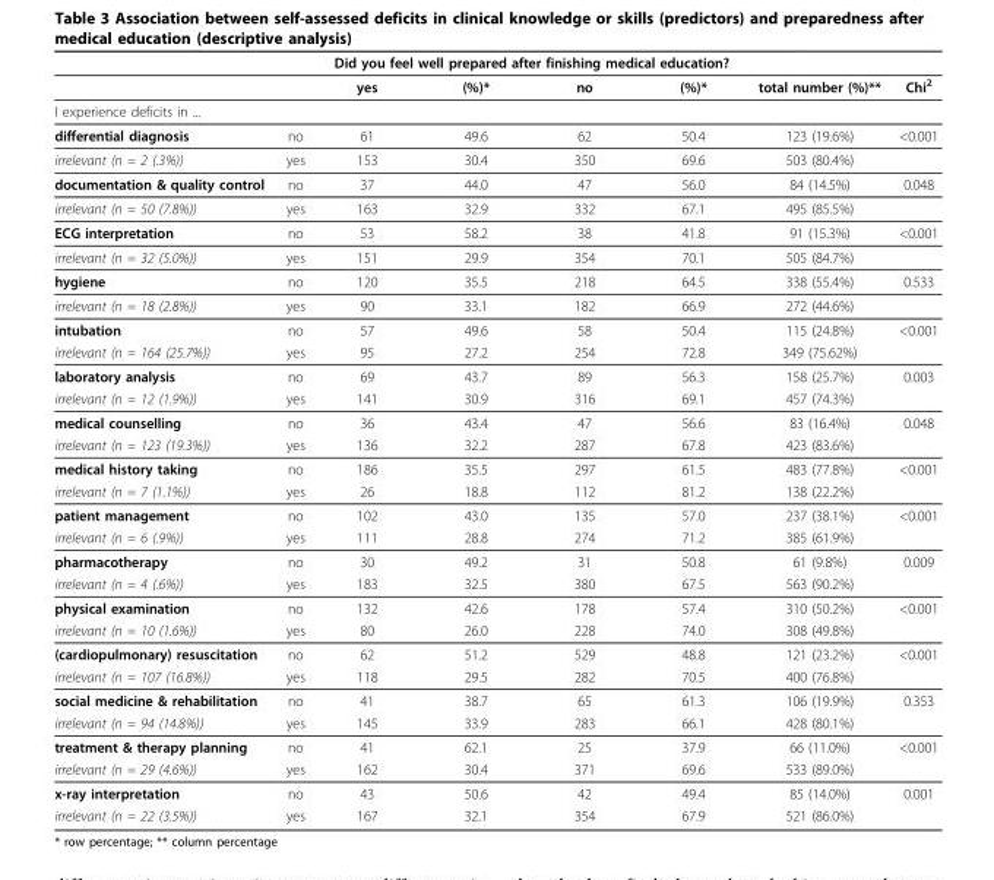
<table><thead><tr><td rowspan="2"></td><td rowspan="2"></td><td colspan="4">Did you feel well prepared after finishing medical education?</td><td rowspan="2">total number (%)**</td><td rowspan="2">Chi<sup>2</sup></td></tr><tr><td>yes</td><td>(%)*</td><td>no</td><td>(%)*</td></tr></thead><tbody><tr><td colspan="8">I experience deficits in ...</td></tr><tr><td>differential diagnosis</td><td>no</td><td>61</td><td>49.6</td><td>62</td><td>50.4</td><td>123 (19.6%)</td><td>&lt;0.001</td></tr><tr><td>irrelevant (n = 2 (.3%))</td><td>yes</td><td>153</td><td>30.4</td><td>350</td><td>69.6</td><td>503 (80.4%)</td><td></td></tr><tr><td>documentation &amp; quality control</td><td>no</td><td>37</td><td>44.0</td><td>47</td><td>56.0</td><td>84 (14.5%)</td><td>0.048</td></tr><tr><td>irrelevant (n = 50 (7.8%))</td><td>yes</td><td>163</td><td>32.9</td><td>332</td><td>67.1</td><td>495 (85.5%)</td><td></td></tr><tr><td>ECG interpretation</td><td>no</td><td>53</td><td>58.2</td><td>38</td><td>41.8</td><td>91 (15.3%)</td><td>&lt;0.001</td></tr><tr><td>irrelevant (n = 32 (5.0%))</td><td>yes</td><td>151</td><td>29.9</td><td>354</td><td>70.1</td><td>505 (84.7%)</td><td></td></tr><tr><td>hygiene</td><td>no</td><td>120</td><td>35.5</td><td>218</td><td>64.5</td><td>338 (55.4%)</td><td>0.533</td></tr><tr><td>irrelevant (n = 18 (2.8%))</td><td>yes</td><td>90</td><td>33.1</td><td>182</td><td>66.9</td><td>272 (44.6%)</td><td></td></tr><tr><td>intubation</td><td>no</td><td>57</td><td>49.6</td><td>58</td><td>50.4</td><td>115 (24.8%)</td><td>&lt;0.001</td></tr><tr><td>irrelevant (n = 164 (25.7%))</td><td>yes</td><td>95</td><td>27.2</td><td>254</td><td>72.8</td><td>349 (75.62%)</td><td></td></tr><tr><td>laboratory analysis</td><td>no</td><td>69</td><td>43.7</td><td>89</td><td>56.3</td><td>158 (25.7%)</td><td>0.003</td></tr><tr><td>irrelevant (n = 12 (1.9%))</td><td>yes</td><td>141</td><td>30.9</td><td>316</td><td>69.1</td><td>457 (74.3%)</td><td></td></tr><tr><td>medical counselling</td><td>no</td><td>36</td><td>43.4</td><td>47</td><td>56.6</td><td>83 (16.4%)</td><td>0.048</td></tr><tr><td>irrelevant (n = 123 (19.3%))</td><td>yes</td><td>136</td><td>32.2</td><td>287</td><td>67.8</td><td>423 (83.6%)</td><td></td></tr><tr><td>medical history taking</td><td>no</td><td>186</td><td>35.5</td><td>297</td><td>61.5</td><td>483 (77.8%)</td><td>&lt;0.001</td></tr><tr><td>irrelevant (n = 7 (1.1%))</td><td>yes</td><td>26</td><td>18.8</td><td>112</td><td>81.2</td><td>138 (22.2%)</td><td></td></tr><tr><td>patient management</td><td>no</td><td>102</td><td>43.0</td><td>135</td><td>57.0</td><td>237 (38.1%)</td><td>&lt;0.001</td></tr><tr><td>irrelevant (n = 6 (.9%))</td><td>yes</td><td>111</td><td>28.8</td><td>274</td><td>71.2</td><td>385 (61.9%)</td><td></td></tr><tr><td>pharmacotherapy</td><td>no</td><td>30</td><td>49.2</td><td>31</td><td>50.8</td><td>61 (9.8%)</td><td>0.009</td></tr><tr><td>irrelevant (n = 4 (.6%))</td><td>yes</td><td>183</td><td>32.5</td><td>380</td><td>67.5</td><td>563 (90.2%)</td><td></td></tr><tr><td>physical examination</td><td>no</td><td>132</td><td>42.6</td><td>178</td><td>57.4</td><td>310 (50.2%)</td><td>&lt;0.001</td></tr><tr><td>irrelevant (n = 10 (1.6%))</td><td>yes</td><td>80</td><td>26.0</td><td>228</td><td>74.0</td><td>308 (49.8%)</td><td></td></tr><tr><td>(cardiopulmonary) resuscitation</td><td>no</td><td>62</td><td>51.2</td><td>529</td><td>48.8</td><td>121 (23.2%)</td><td>&lt;0.001</td></tr><tr><td>irrelevant (n = 107 (16.8%))</td><td>yes</td><td>118</td><td>29.5</td><td>282</td><td>70.5</td><td>400 (76.8%)</td><td></td></tr><tr><td>social medicine &amp; rehabilitation</td><td>no</td><td>41</td><td>38.7</td><td>65</td><td>61.3</td><td>106 (19.9%)</td><td>0.353</td></tr><tr><td>irrelevant (n = 94 (14.8%))</td><td>yes</td><td>145</td><td>33.9</td><td>283</td><td>66.1</td><td>428 (80.1%)</td><td></td></tr><tr><td>treatment &amp; therapy planning</td><td>no</td><td>41</td><td>62.1</td><td>25</td><td>37.9</td><td>66 (11.0%)</td><td>&lt;0.001</td></tr><tr><td>irrelevant (n = 29 (4.6%))</td><td>yes</td><td>162</td><td>30.4</td><td>371</td><td>69.6</td><td>533 (89.0%)</td><td></td></tr><tr><td>x-ray interpretation</td><td>no</td><td>43</td><td>50.6</td><td>42</td><td>49.4</td><td>85 (14.0%)</td><td>0.001</td></tr><tr><td>irrelevant (n = 22 (3.5%))</td><td>yes</td><td>167</td><td>32.1</td><td>354</td><td>67.9</td><td>521 (86.0%)</td><td></td></tr></tbody></table>